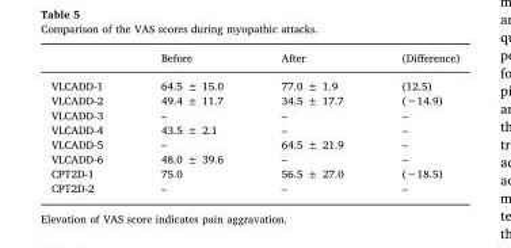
<table><thead><tr><td></td><td>Before</td><td>After</td><td>(Difference)</td></tr></thead><tbody><tr><td>VLCADD-1</td><td>64.5 ± 15.0</td><td>77.0 ± 1.9</td><td>(12.5)</td></tr><tr><td>VLCADD-2</td><td>49.4 ± 11.7</td><td>34.5 ± 17.7</td><td>(−14.9)</td></tr><tr><td>VLCADD-3</td><td>–</td><td>–</td><td>–</td></tr><tr><td>VLCADD-4</td><td>43.5 ± 2.1</td><td>–</td><td>–</td></tr><tr><td>VLCADD-5</td><td>–</td><td>64.5 ± 21.9</td><td>–</td></tr><tr><td>VLCADD-6</td><td>48.0 ± 39.6</td><td>–</td><td>–</td></tr><tr><td>CPT2D-1</td><td>75.0</td><td>56.5 ± 27.0</td><td>(−18.5)</td></tr><tr><td>CPT2D-2</td><td>–</td><td>–</td><td>–</td></tr></tbody></table>